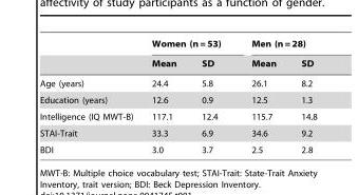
<table><thead><tr><td rowspan="2"></td><td colspan="2">Women (n = 53)</td><td colspan="2">Men (n = 28)</td></tr><tr><td>Mean</td><td>SD</td><td>Mean</td><td>SD</td></tr></thead><tbody><tr><td>Age (years)</td><td>24.4</td><td>5.8</td><td>26.1</td><td>8.2</td></tr><tr><td>Education (years)</td><td>12.6</td><td>0.9</td><td>12.5</td><td>1.3</td></tr><tr><td>Intelligence (IQ MWT-B)</td><td>117.1</td><td>12.4</td><td>115.7</td><td>14.8</td></tr><tr><td>STAI-Trait</td><td>33.3</td><td>6.9</td><td>34.6</td><td>9.2</td></tr><tr><td>BDI</td><td>3.0</td><td>3.7</td><td>2.5</td><td>2.8</td></tr></tbody></table>